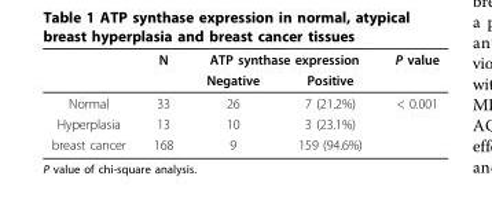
<table><thead><tr><td rowspan="2"></td><td rowspan="2">N</td><td colspan="2">ATP synthase expression</td><td rowspan="2">P value</td></tr><tr><td>Negative</td><td>Positive</td></tr></thead><tbody><tr><td>Normal</td><td>33</td><td>26</td><td>7 (21.2%)</td><td>&lt; 0.001</td></tr><tr><td>Hyperplasia</td><td>13</td><td>10</td><td>3 (23.1%)</td><td></td></tr><tr><td>breast cancer</td><td>168</td><td>9</td><td>159 (94.6%)</td><td></td></tr></tbody></table>